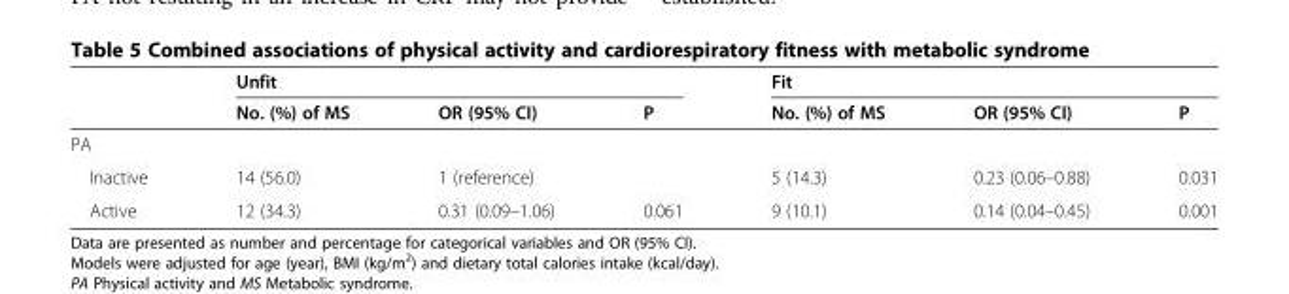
<table><thead><tr><td rowspan="2"></td><td colspan="3">Unfit</td><td colspan="3">Fit</td></tr><tr><td>No. (%) of MS</td><td>OR (95% CI)</td><td>P</td><td>No. (%) of MS</td><td>OR (95% CI)</td><td>P</td></tr></thead><tbody><tr><td colspan="7">PA</td></tr><tr><td>Inactive</td><td>14 (56.0)</td><td>1 (reference)</td><td></td><td>5 (14.3)</td><td>0.23 (0.06–0.88)</td><td>0.031</td></tr><tr><td>Active</td><td>12 (34.3)</td><td>0.31 (0.09–1.06)</td><td>0.061</td><td>9 (10.1)</td><td>0.14 (0.04–0.45)</td><td>0.001</td></tr></tbody></table>